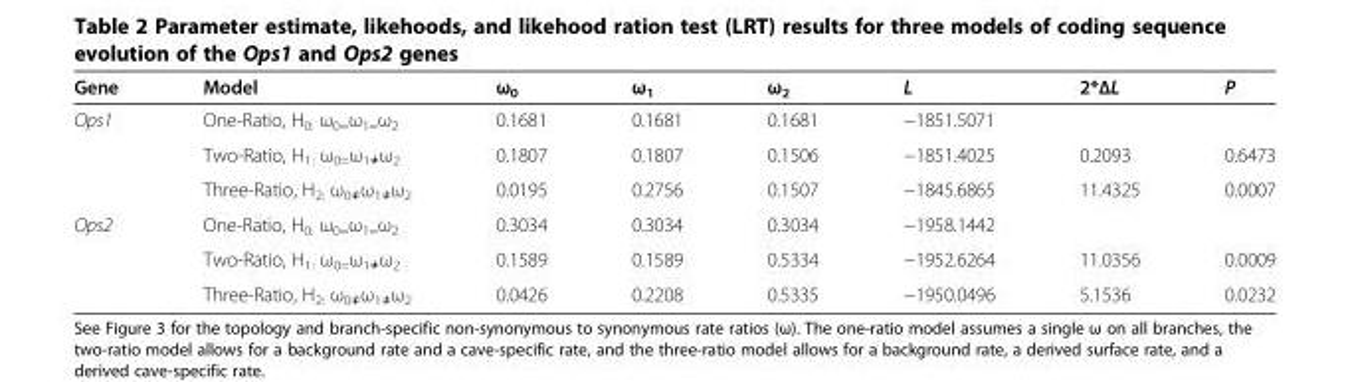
<table><thead><tr><td>Gene</td><td>Model</td><td>ω<sub>0</sub></td><td>ω<sub>1</sub></td><td>ω<sub>2</sub></td><td>L</td><td>2*ΔL</td><td>P</td></tr></thead><tbody><tr><td rowspan="3">Ops1</td><td>One-Ratio, H<sub>0:</sub> ω<sub>0=</sub>ω<sub>1=</sub>ω<sub>2</sub></td><td>0.1681</td><td>0.1681</td><td>0.1681</td><td>−1851.5071</td><td></td><td></td></tr><tr><td>Two-Ratio, H<sub>1:</sub> ω<sub>0=</sub>ω<sub>1≠</sub>ω<sub>2</sub></td><td>0.1807</td><td>0.1807</td><td>0.1506</td><td>−1851.4025</td><td>0.2093</td><td>0.6473</td></tr><tr><td>Three-Ratio, H<sub>2:</sub> ω<sub>0≠</sub>ω<sub>1≠</sub>ω<sub>2</sub></td><td>0.0195</td><td>0.2756</td><td>0.1507</td><td>−1845.6865</td><td>11.4325</td><td>0.0007</td></tr><tr><td rowspan="3">Ops2</td><td>One-Ratio, H<sub>0:</sub> ω<sub>0=</sub>ω<sub>1=</sub>ω<sub>2</sub></td><td>0.3034</td><td>0.3034</td><td>0.3034</td><td>−1958.1442</td><td></td><td></td></tr><tr><td>Two-Ratio, H<sub>1:</sub> ω<sub>0=</sub>ω<sub>1≠</sub>ω<sub>2</sub></td><td>0.1589</td><td>0.1589</td><td>0.5334</td><td>−1952.6264</td><td>11.0356</td><td>0.0009</td></tr><tr><td>Three-Ratio, H<sub>2:</sub> ω<sub>0≠</sub>ω<sub>1≠</sub>ω<sub>2</sub></td><td>0.0426</td><td>0.2208</td><td>0.5335</td><td>−1950.0496</td><td>5.1536</td><td>0.0232</td></tr></tbody></table>